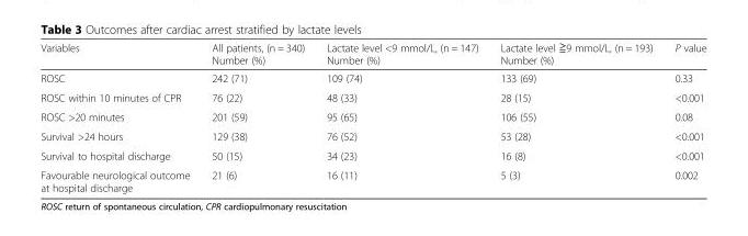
<table><thead><tr><td>Variables</td><td>All patients, (n = 340) Number (%)</td><td>Lactate level &lt;9 mmol/L, (n = 147) Number (%)</td><td>Lactate level ≧9 mmol/L, (n = 193) Number (%)</td><td>P value</td></tr></thead><tbody><tr><td>ROSC</td><td>242 (71)</td><td>109 (74)</td><td>133 (69)</td><td>0.33</td></tr><tr><td>ROSC within 10 minutes of CPR</td><td>76 (22)</td><td>48 (33)</td><td>28 (15)</td><td>&lt;0.001</td></tr><tr><td>ROSC &gt;20 minutes</td><td>201 (59)</td><td>95 (65)</td><td>106 (55)</td><td>0.08</td></tr><tr><td>Survival &gt;24 hours</td><td>129 (38)</td><td>76 (52)</td><td>53 (28)</td><td>&lt;0.001</td></tr><tr><td>Survival to hospital discharge</td><td>50 (15)</td><td>34 (23)</td><td>16 (8)</td><td>&lt;0.001</td></tr><tr><td>Favourable neurological outcome at hospital discharge</td><td>21 (6)</td><td>16 (11)</td><td>5 (3)</td><td>0.002</td></tr></tbody></table>